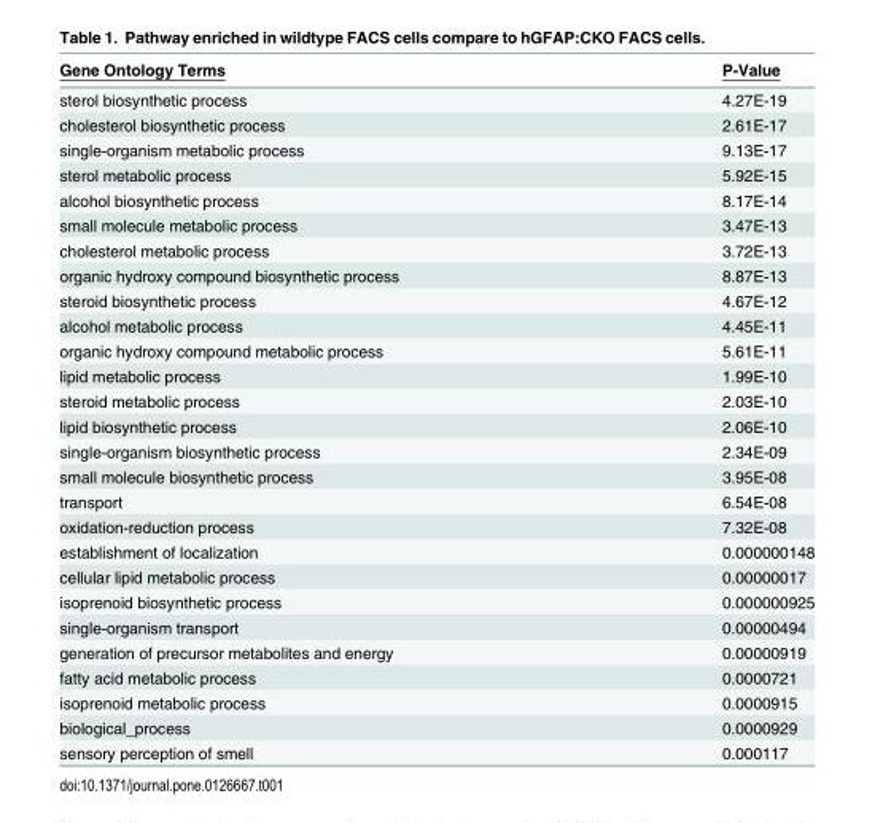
<table><thead><tr><td>Gene Ontology Terms</td><td>P-Value</td></tr></thead><tbody><tr><td>sterol biosynthetic process</td><td>4.27E-19</td></tr><tr><td>cholesterol biosynthetic process</td><td>2.61E-17</td></tr><tr><td>single-organism metabolic process</td><td>9.13E-17</td></tr><tr><td>sterol metabolic process</td><td>5.92E-15</td></tr><tr><td>alcohol biosynthetic process</td><td>8.17E-14</td></tr><tr><td>small molecule metabolic process</td><td>3.47E-13</td></tr><tr><td>cholesterol metabolic process</td><td>3.72E-13</td></tr><tr><td>organic hydroxy compound biosynthetic process</td><td>8.87E-13</td></tr><tr><td>steroid biosynthetic process</td><td>4.67E-12</td></tr><tr><td>alcohol metabolic process</td><td>4.45E-11</td></tr><tr><td>organic hydroxy compound metabolic process</td><td>5.61E-11</td></tr><tr><td>lipid metabolic process</td><td>1.99E-10</td></tr><tr><td>steroid metabolic process</td><td>2.03E-10</td></tr><tr><td>lipid biosynthetic process</td><td>2.06E-10</td></tr><tr><td>single-organism biosynthetic process</td><td>2.34E-09</td></tr><tr><td>small molecule biosynthetic process</td><td>3.95E-08</td></tr><tr><td>transport</td><td>6.54E-08</td></tr><tr><td>oxidation-reduction process</td><td>7.32E-08</td></tr><tr><td>establishment of localization</td><td>0.000000148</td></tr><tr><td>cellular lipid metabolic process</td><td>0.00000017</td></tr><tr><td>isoprenoid biosynthetic process</td><td>0.000000925</td></tr><tr><td>single-organism transport</td><td>0.00000494</td></tr><tr><td>generation of precursor metabolites and energy</td><td>0.00000919</td></tr><tr><td>fatty acid metabolic process</td><td>0.0000721</td></tr><tr><td>isoprenoid metabolic process</td><td>0.0000915</td></tr><tr><td>biological_process</td><td>0.0000929</td></tr><tr><td>sensory perception of smell</td><td>0.000117</td></tr></tbody></table>